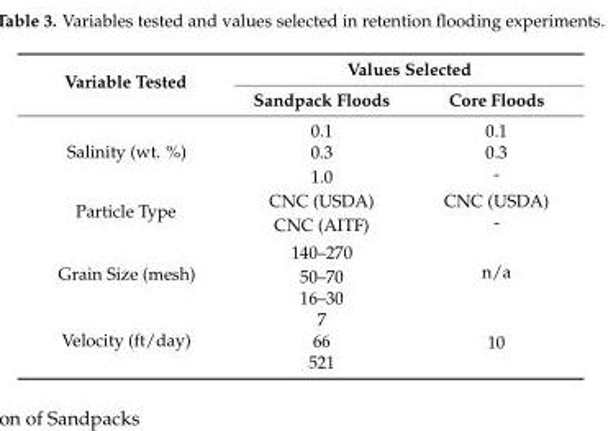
<table><thead><tr><td rowspan="2">Variable Tested</td><td colspan="2">Values Selected</td></tr><tr><td>Sandpack Floods</td><td>Core Floods</td></tr></thead><tbody><tr><td rowspan="3">Salinity (wt. %)</td><td>0.1</td><td>0.1</td></tr><tr><td>0.3</td><td>0.3</td></tr><tr><td>1.0</td><td>-</td></tr><tr><td rowspan="2">Particle Type</td><td>CNC (USDA)</td><td>CNC (USDA)</td></tr><tr><td>CNC (AITF)</td><td>-</td></tr><tr><td rowspan="3">Grain Size (mesh)</td><td>140–270</td><td rowspan="3">n/a</td></tr><tr><td>50–70</td></tr><tr><td>16–30</td></tr><tr><td rowspan="3">Velocity (ft/day)</td><td>7</td><td rowspan="3">10</td></tr><tr><td>66</td></tr><tr><td>521</td></tr></tbody></table>